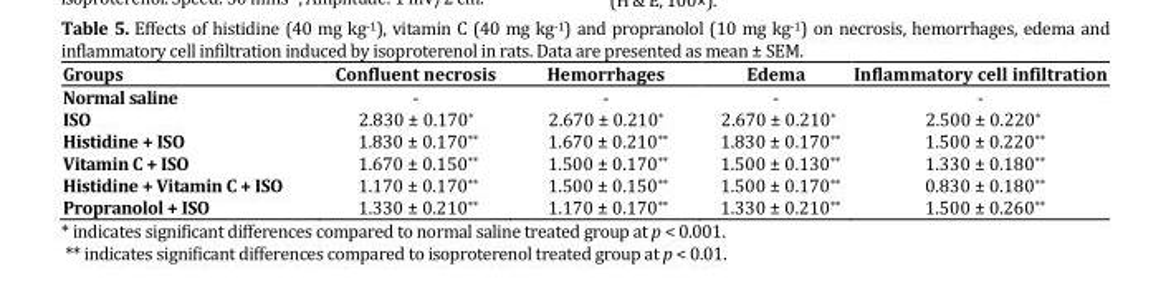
<table><thead><tr><td>Groups</td><td>Confluent necrosis</td><td>Hemorrhages</td><td>Edema</td><td>Inflammatory cell infiltration</td></tr></thead><tbody><tr><td>Normal saline</td><td>-</td><td>-</td><td>-</td><td>-</td></tr><tr><td>ISO</td><td>2.830 ± 0.170*</td><td>2.670 ± 0.210*</td><td>2.670 ± 0.210*</td><td>2.500 ± 0.220*</td></tr><tr><td>Histidine + ISO</td><td>1.830 ± 0.170**</td><td>1.670 ± 0.210**</td><td>1.830 ± 0.170**</td><td>1.500 ± 0.220**</td></tr><tr><td>Vitamin C + ISO</td><td>1.670 ± 0.150**</td><td>1.500 ± 0.170**</td><td>1.500 ± 0.130**</td><td>1.330 ± 0.180**</td></tr><tr><td>Histidine + Vitamin C + ISO</td><td>1.170 ± 0.170**</td><td>1.500 ± 0.150**</td><td>1.500 ± 0.170**</td><td>0.830 ± 0.180**</td></tr><tr><td>Propranolol + ISO</td><td>1.330 ± 0.210**</td><td>1.170 ± 0.170**</td><td>1.330 ± 0.210**</td><td>1.500 ± 0.260**</td></tr></tbody></table>